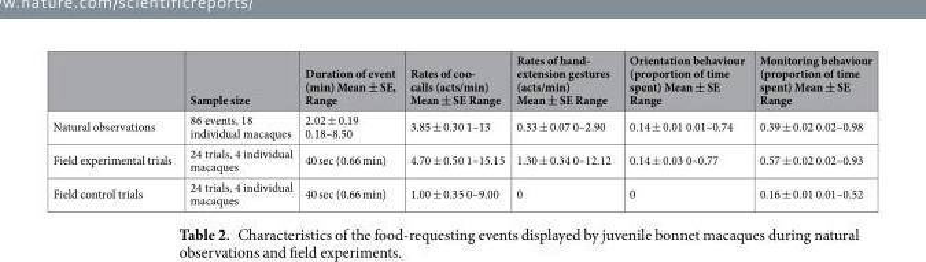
<table><thead><tr><td></td><td>Sample size</td><td>Duration of event (min) Mean ± SE, Range</td><td>Rates of coo- calls (acts/min) Mean ± SE Range</td><td>Rates of hand- extension gestures (acts/min) Mean ± SE Range</td><td>Orientation behaviour (proportion of time spent) Mean ± SE Range</td><td>Monitoring behaviour (proportion of time spent) Mean ± SE Range</td></tr></thead><tbody><tr><td>Natural observations</td><td>86 events, 18 individual macaques</td><td>2.02 ± 0.19 0.18–8.50</td><td>3.85 ± 0.30 1–13</td><td>0.33 ± 0.07 0–2.90</td><td>0.14 ± 0.01 0.01–0.74</td><td>0.39 ± 0.02 0.02–0.98</td></tr><tr><td>Field experimental trials</td><td>24 trials, 4 individual macaques</td><td>40 sec (0.66 min)</td><td>4.70 ± 0.50 1–15.15</td><td>1.30 ± 0.34 0–12.12</td><td>0.14 ± 0.03 0–0.77</td><td>0.57 ± 0.02 0.02–0.93</td></tr><tr><td>Field control trials</td><td>24 trials, 4 individual macaques</td><td>40 sec (0.66 min)</td><td>1.00 ± 0.35 0–9.00</td><td>0</td><td>0</td><td>0.16 ± 0.01 0.01–0.52</td></tr></tbody></table>